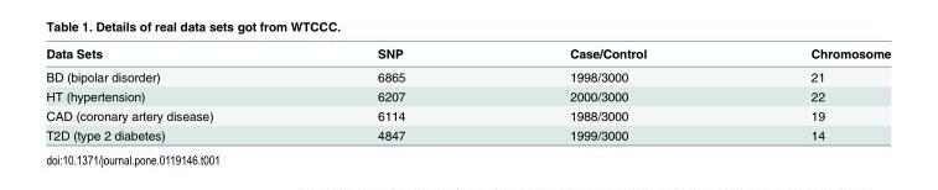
<table><thead><tr><td>Data Sets</td><td>SNP</td><td>Case/Control</td><td>Chromosome</td></tr></thead><tbody><tr><td>BD (bipolar disorder)</td><td>6865</td><td>1998/3000</td><td>21</td></tr><tr><td>HT (hypertension)</td><td>6207</td><td>2000/3000</td><td>22</td></tr><tr><td>CAD (coronary artery disease)</td><td>6114</td><td>1988/3000</td><td>19</td></tr><tr><td>T2D (type 2 diabetes)</td><td>4847</td><td>1999/3000</td><td>14</td></tr></tbody></table>